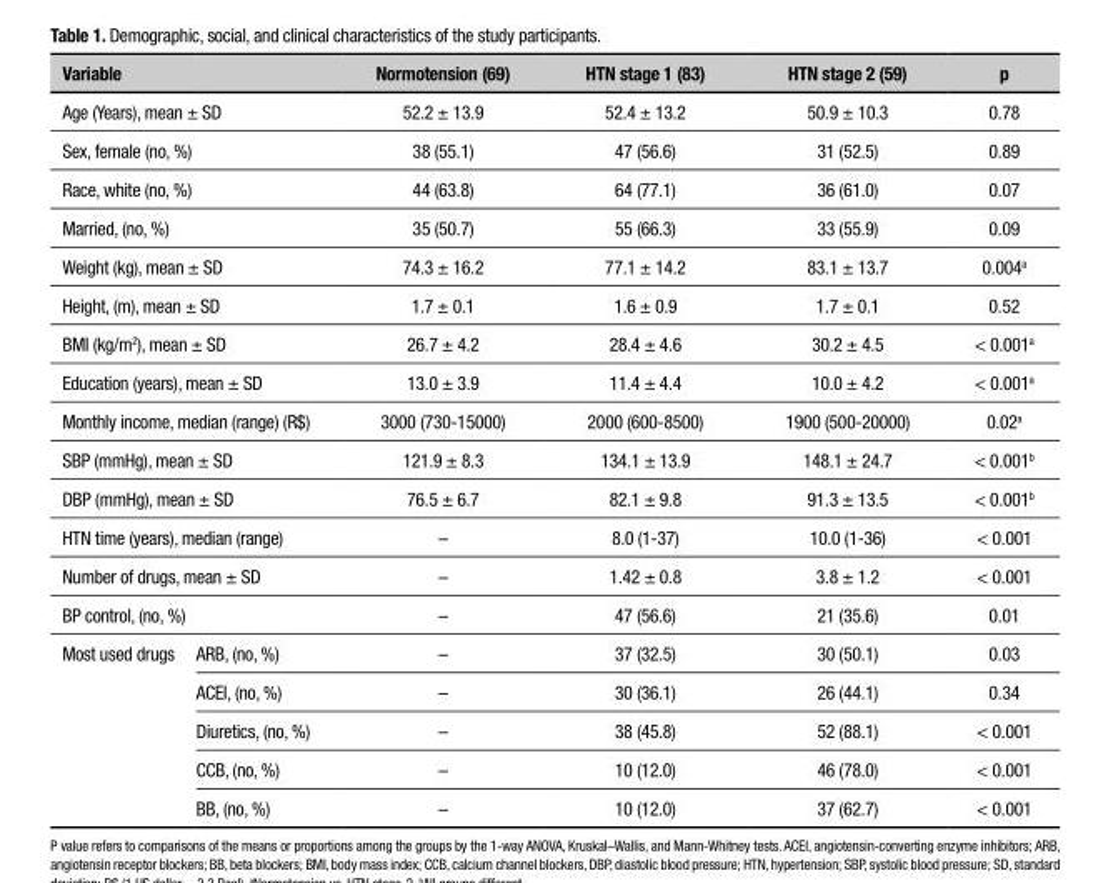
<table><thead><tr><td colspan="2">Variable</td><td>Normotension (69)</td><td>HTN stage 1 (83)</td><td>HTN stage 2 (59)</td><td>p</td></tr></thead><tbody><tr><td colspan="2">Age (Years), mean ± SD</td><td>52.2 ± 13.9</td><td>52.4 ± 13.2</td><td>50.9 ± 10.3</td><td>0.78</td></tr><tr><td colspan="2">Sex, female (no, %)</td><td>38 (55.1)</td><td>47 (56.6)</td><td>31 (52.5)</td><td>0.89</td></tr><tr><td colspan="2">Race, white (no, %)</td><td>44 (63.8)</td><td>64 (77.1)</td><td>36 (61.0)</td><td>0.07</td></tr><tr><td colspan="2">Married, (no, %)</td><td>35 (50.7)</td><td>55 (66.3)</td><td>33 (55.9)</td><td>0.09</td></tr><tr><td colspan="2">Weight (kg), mean ± SD</td><td>74.3 ± 16.2</td><td>77.1 ± 14.2</td><td>83.1 ± 13.7</td><td>0.004<sup>a</sup></td></tr><tr><td colspan="2">Height, (m), mean ± SD</td><td>1.7 ± 0.1</td><td>1.6 ± 0.9</td><td>1.7 ± 0.1</td><td>0.52</td></tr><tr><td colspan="2">BMI (kg/m<sup>2</sup>), mean ± SD</td><td>26.7 ± 4.2</td><td>28.4 ± 4.6</td><td>30.2 ± 4.5</td><td>&lt; 0.001<sup>a</sup></td></tr><tr><td colspan="2">Education (years), mean ± SD</td><td>13.0 ± 3.9</td><td>11.4 ± 4.4</td><td>10.0 ± 4.2</td><td>&lt; 0.001<sup>a</sup></td></tr><tr><td colspan="2">Monthly income, median (range) (R$)</td><td>3000 (730-15000)</td><td>2000 (600-8500)</td><td>1900 (500-20000)</td><td>0.02a</td></tr><tr><td colspan="2">SBP (mmHg), mean ± SD</td><td>121.9 ± 8.3</td><td>134.1 ± 13.9</td><td>148.1 ± 24.7</td><td>&lt; 0.001<sup>b</sup></td></tr><tr><td colspan="2">DBP (mmHg), mean ± SD</td><td>76.5 ± 6.7</td><td>82.1 ± 9.8</td><td>91.3 ± 13.5</td><td>&lt; 0.001<sup>b</sup></td></tr><tr><td colspan="2">HTN time (years), median (range)</td><td>–</td><td>8.0 (1-37)</td><td>10.0 (1-36)</td><td>&lt; 0.001</td></tr><tr><td colspan="2">Number of drugs, mean ± SD</td><td>–</td><td>1.42 ± 0.8</td><td>3.8 ± 1.2</td><td>&lt; 0.001</td></tr><tr><td colspan="2">BP control, (no, %)</td><td>–</td><td>47 (56.6)</td><td>21 (35.6)</td><td>0.01</td></tr><tr><td rowspan="5">Most used drugs</td><td>ARB, (no, %)</td><td>–</td><td>37 (32.5)</td><td>30 (50.1)</td><td>0.03</td></tr><tr><td>ACEI, (no, %)</td><td>–</td><td>30 (36.1)</td><td>26 (44.1)</td><td>0.34</td></tr><tr><td>Diuretics, (no, %)</td><td>–</td><td>38 (45.8)</td><td>52 (88.1)</td><td>&lt; 0.001</td></tr><tr><td>CCB, (no, %)</td><td>–</td><td>10 (12.0)</td><td>46 (78.0)</td><td>&lt; 0.001</td></tr><tr><td>BB, (no, %)</td><td>–</td><td>10 (12.0)</td><td>37 (62.7)</td><td>&lt; 0.001</td></tr></tbody></table>